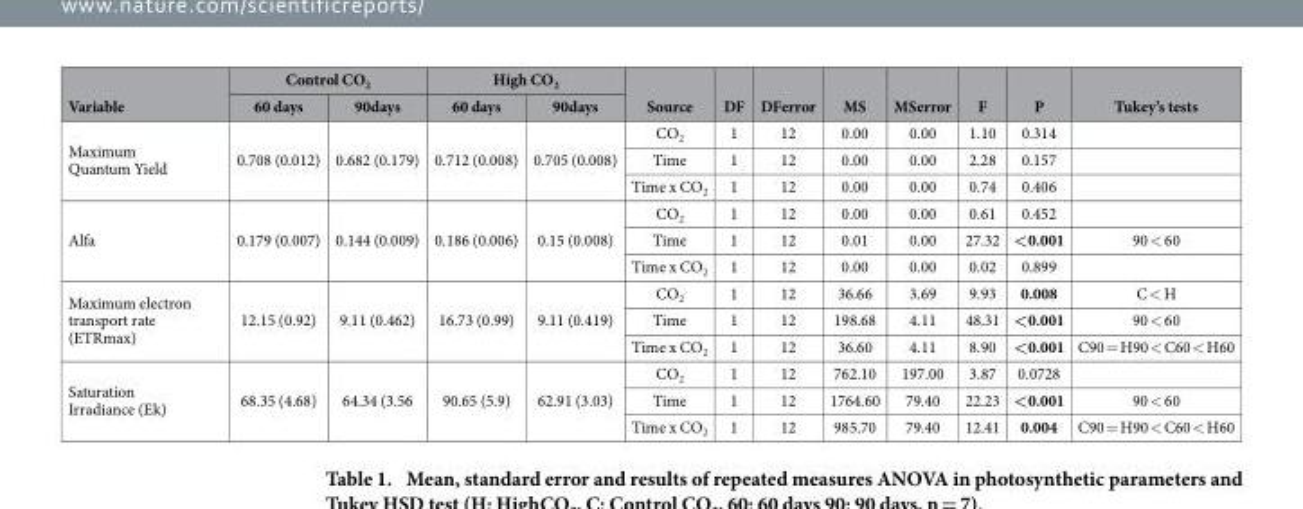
<table><thead><tr><td rowspan="2">Variable</td><td colspan="2">Control CO<sub>2</sub></td><td colspan="2">High CO<sub>2</sub></td><td rowspan="2">Source</td><td rowspan="2">DF</td><td rowspan="2">DFerror</td><td rowspan="2">MS</td><td rowspan="2">MSerror</td><td rowspan="2">F</td><td rowspan="2">P</td><td rowspan="2">Tukey’s tests</td></tr><tr><td>60 days</td><td>90days</td><td>60 days</td><td>90days</td></tr></thead><tbody><tr><td rowspan="3">Maximum Quantum Yield</td><td rowspan="3">0.708 (0.012)</td><td rowspan="3">0.682 (0.179)</td><td rowspan="3">0.712 (0.008)</td><td rowspan="3">0.705 (0.008)</td><td>CO<sub>2</sub></td><td>1</td><td>12</td><td>0.00</td><td>0.00</td><td>1.10</td><td>0.314</td><td></td></tr><tr><td>Time</td><td>1</td><td>12</td><td>0.00</td><td>0.00</td><td>2.28</td><td>0.157</td><td></td></tr><tr><td>Time x CO<sub>2</sub></td><td>1</td><td>12</td><td>0.00</td><td>0.00</td><td>0.74</td><td>0.406</td><td></td></tr><tr><td rowspan="3">Alfa</td><td rowspan="3">0.179 (0.007)</td><td rowspan="3">0.144 (0.009)</td><td rowspan="3">0.186 (0.006)</td><td rowspan="3">0.15 (0.008)</td><td>CO<sub>2</sub></td><td>1</td><td>12</td><td>0.00</td><td>0.00</td><td>0.61</td><td>0.452</td><td></td></tr><tr><td>Time</td><td>1</td><td>12</td><td>0.01</td><td>0.00</td><td>27.32</td><td>&lt;0.001</td><td>90 &lt; 60</td></tr><tr><td>Time x CO<sub>2</sub></td><td>1</td><td>12</td><td>0.00</td><td>0.00</td><td>0.02</td><td>0.899</td><td></td></tr><tr><td rowspan="3">Maximum electron transport rate (ETRmax)</td><td rowspan="3">12.15 (0.92)</td><td rowspan="3">9.11 (0.462)</td><td rowspan="3">16.73 (0.99)</td><td rowspan="3">9.11 (0.419)</td><td>CO<sub>2</sub></td><td>1</td><td>12</td><td>36.66</td><td>3.69</td><td>9.93</td><td>0.008</td><td>C &lt; H</td></tr><tr><td>Time</td><td>1</td><td>12</td><td>198.68</td><td>4.11</td><td>48.31</td><td>&lt;0.001</td><td>90 &lt; 60</td></tr><tr><td>Time x CO<sub>2</sub></td><td>1</td><td>12</td><td>36.60</td><td>4.11</td><td>8.90</td><td>&lt;0.001</td><td>C90 = H90 &lt; C60 &lt; H60</td></tr><tr><td rowspan="3">Saturation Irradiance (Ek)</td><td rowspan="3">68.35 (4.68)</td><td rowspan="3">64.34 (3.56</td><td rowspan="3">90.65 (5.9)</td><td rowspan="3">62.91 (3.03)</td><td>CO<sub>2</sub></td><td>1</td><td>12</td><td>762.10</td><td>197.00</td><td>3.87</td><td>0.0728</td><td></td></tr><tr><td>Time</td><td>1</td><td>12</td><td>1764.60</td><td>79.40</td><td>22.23</td><td>&lt;0.001</td><td>90 &lt; 60</td></tr><tr><td>Time x CO<sub>2</sub></td><td>1</td><td>12</td><td>985.70</td><td>79.40</td><td>12.41</td><td>0.004</td><td>C90 = H90 &lt; C60 &lt; H60</td></tr></tbody></table>